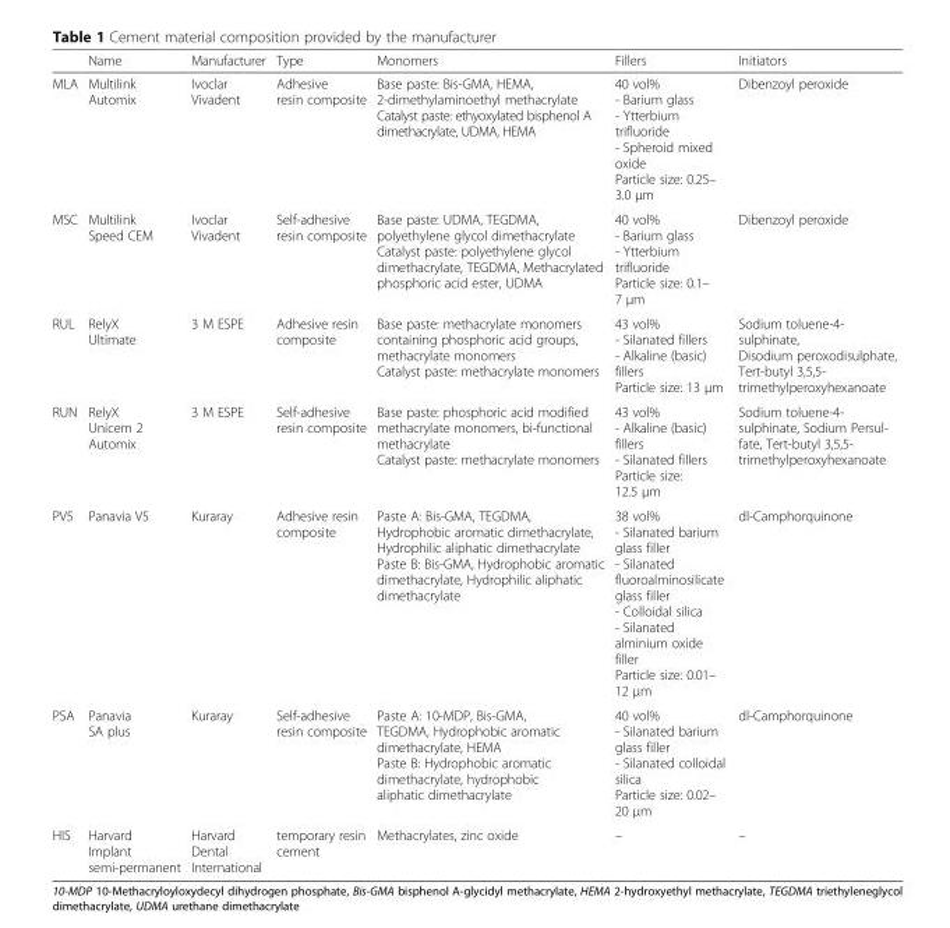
<table><thead><tr><td></td><td>Name</td><td>Manufacturer</td><td>Type</td><td>Monomers</td><td>Fillers</td><td>Initiators</td></tr></thead><tbody><tr><td>MLA</td><td>Multilink Automix</td><td>Ivoclar Vivadent</td><td>Adhesive resin composite</td><td>Base paste: Bis-GMA, HEMA, 2-dimethylaminoethyl methacrylate Catalyst paste: ethyoxylated bisphenol A dimethacrylate, UDMA, HEMA</td><td>40 vol% - Barium glass - Ytterbium trifluoride - Spheroid mixed oxide Particle size: 0.25– 3.0 μm</td><td>Dibenzoyl peroxide</td></tr><tr><td>MSC</td><td>Multilink Speed CEM</td><td>Ivoclar Vivadent</td><td>Self-adhesive resin composite</td><td>Base paste: UDMA, TEGDMA, polyethylene glycol dimethacrylate Catalyst paste: polyethylene glycol dimethacrylate, TEGDMA, Methacrylated phosphoric acid ester, UDMA</td><td>40 vol% - Barium glass - Ytterbium trifluoride Particle size: 0.1– 7 μm</td><td>Dibenzoyl peroxide</td></tr><tr><td>RUL</td><td>RelyX Ultimate</td><td>3 M ESPE</td><td>Adhesive resin composite</td><td>Base paste: methacrylate monomers containing phosphoric acid groups, methacrylate monomers Catalyst paste: methacrylate monomers</td><td>43 vol% - Silanated fillers - Alkaline (basic) fillers Particle size: 13 μm</td><td>Sodium toluene-4- sulphinate, Disodium peroxodisulphate, Tert-butyl 3,5,5- trimethylperoxyhexanoate</td></tr><tr><td>RUN</td><td>RelyX Unicem 2 Automix</td><td>3 M ESPE</td><td>Self-adhesive resin composite</td><td>Base paste: phosphoric acid modified methacrylate monomers, bi-functional methacrylate Catalyst paste: methacrylate monomers</td><td>43 vol% - Alkaline (basic) fillers - Silanated fillers Particle size: 12.5 μm</td><td>Sodium toluene-4- sulphinate, Sodium Persul- fate, Tert-butyl 3,5,5- trimethylperoxyhexanoate</td></tr><tr><td>PV5</td><td>Panavia V5</td><td>Kuraray</td><td>Adhesive resin composite</td><td>Paste A: Bis-GMA, TEGDMA, Hydrophobic aromatic dimethacrylate, Hydrophilic aliphatic dimethacrylate Paste B: Bis-GMA, Hydrophobic aromatic dimethacrylate, Hydrophilic aliphatic dimethacrylate</td><td>38 vol% - Silanated barium glass filler - Silanated fluoroalminosilicate glass filler - Colloidal silica - Silanated alminium oxide filler Particle size: 0.01– 12 μm</td><td>dl-Camphorquinone</td></tr><tr><td>PSA</td><td>Panavia SA plus</td><td>Kuraray</td><td>Self-adhesive resin composite</td><td>Paste A: 10-MDP, Bis-GMA, TEGDMA, Hydrophobic aromatic dimethacrylate, HEMA Paste B: Hydrophobic aromatic dimethacrylate, hydrophobic aliphatic dimethacrylate</td><td>40 vol% - Silanated barium glass filler - Silanated colloidal silica Particle size: 0.02– 20 μm</td><td>dl-Camphorquinone</td></tr><tr><td>HIS</td><td>Harvard Implant semi-permanent</td><td>Harvard Dental International</td><td>temporary resin cement</td><td>Methacrylates, zinc oxide</td><td>–</td><td>–</td></tr></tbody></table>